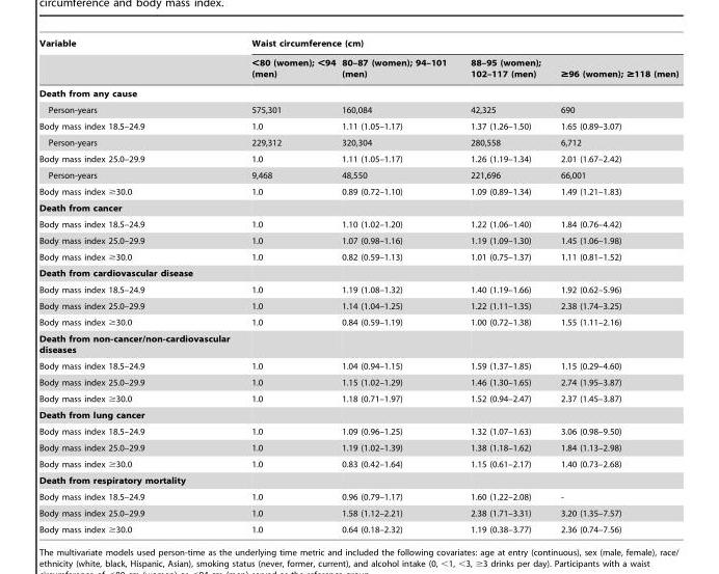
<table><thead><tr><td rowspan="2">Variable</td><td colspan="4">Waist circumference (cm)</td></tr><tr><td>&lt;80 (women); &lt;94 (men)</td><td>80–87 (women); 94–101 (men)</td><td>88–95 (women); 102–117 (men)</td><td>≥96 (women); ≥118 (men)</td></tr></thead><tbody><tr><td colspan="5">Death from any cause</td></tr><tr><td>Person-years</td><td>575,301</td><td>160,084</td><td>42,325</td><td>690</td></tr><tr><td>Body mass index 18.5–24.9</td><td>1.0</td><td>1.11 (1.05–1.17)</td><td>1.37 (1.26–1.50)</td><td>1.65 (0.89–3.07)</td></tr><tr><td>Person-years</td><td>229,312</td><td>320,304</td><td>280,558</td><td>6,712</td></tr><tr><td>Body mass index 25.0–29.9</td><td>1.0</td><td>1.11 (1.05–1.17)</td><td>1.26 (1.19–1.34)</td><td>2.01 (1.67–2.42)</td></tr><tr><td>Person-years</td><td>9,468</td><td>48,550</td><td>221,696</td><td>66,001</td></tr><tr><td>Body mass index ≥30.0</td><td>1.0</td><td>0.89 (0.72–1.10)</td><td>1.09 (0.89–1.34)</td><td>1.49 (1.21–1.83)</td></tr><tr><td colspan="5">Death from cancer</td></tr><tr><td>Body mass index 18.5–24.9</td><td>1.0</td><td>1.10 (1.02–1.20)</td><td>1.22 (1.06–1.40)</td><td>1.84 (0.76–4.42)</td></tr><tr><td>Body mass index 25.0–29.9</td><td>1.0</td><td>1.07 (0.98–1.16)</td><td>1.19 (1.09–1.30)</td><td>1.45 (1.06–1.98)</td></tr><tr><td>Body mass index ≥30.0</td><td>1.0</td><td>0.82 (0.59–1.13)</td><td>1.01 (0.75–1.37)</td><td>1.11 (0.81–1.52)</td></tr><tr><td colspan="5">Death from cardiovascular disease</td></tr><tr><td>Body mass index 18.5–24.9</td><td>1.0</td><td>1.19 (1.08–1.32)</td><td>1.40 (1.19–1.66)</td><td>1.92 (0.62–5.96)</td></tr><tr><td>Body mass index 25.0–29.9</td><td>1.0</td><td>1.14 (1.04–1.25)</td><td>1.22 (1.11–1.35)</td><td>2.38 (1.74–3.25)</td></tr><tr><td>Body mass index ≥30.0</td><td>1.0</td><td>0.84 (0.59–1.19)</td><td>1.00 (0.72–1.38)</td><td>1.55 (1.11–2.16)</td></tr><tr><td colspan="5">Death from non-cancer/non-cardiovascular diseases</td></tr><tr><td>Body mass index 18.5–24.9</td><td>1.0</td><td>1.04 (0.94–1.15)</td><td>1.59 (1.37–1.85)</td><td>1.15 (0.29–4.60)</td></tr><tr><td>Body mass index 25.0–29.9</td><td>1.0</td><td>1.15 (1.02–1.29)</td><td>1.46 (1.30–1.65)</td><td>2.74 (1.95–3.87)</td></tr><tr><td>Body mass index ≥30.0</td><td>1.0</td><td>1.18 (0.71–1.97)</td><td>1.52 (0.94–2.47)</td><td>2.37 (1.45–3.87)</td></tr><tr><td colspan="5">Death from lung cancer</td></tr><tr><td>Body mass index 18.5–24.9</td><td>1.0</td><td>1.09 (0.96–1.25)</td><td>1.32 (1.07–1.63)</td><td>3.06 (0.98–9.50)</td></tr><tr><td>Body mass index 25.0–29.9</td><td>1.0</td><td>1.19 (1.02–1.39)</td><td>1.38 (1.18–1.62)</td><td>1.84 (1.13–2.98)</td></tr><tr><td>Body mass index ≥30.0</td><td>1.0</td><td>0.83 (0.42–1.64)</td><td>1.15 (0.61–2.17)</td><td>1.40 (0.73–2.68)</td></tr><tr><td colspan="5">Death from respiratory mortality</td></tr><tr><td>Body mass index 18.5–24.9</td><td>1.0</td><td>0.96 (0.79–1.17)</td><td>1.60 (1.22–2.08)</td><td>-</td></tr><tr><td>Body mass index 25.0–29.9</td><td>1.0</td><td>1.58 (1.12–2.21)</td><td>2.38 (1.71–3.31)</td><td>3.20 (1.35–7.57)</td></tr><tr><td>Body mass index ≥30.0</td><td>1.0</td><td>0.64 (0.18–2.32)</td><td>1.19 (0.38–3.77)</td><td>2.36 (0.74–7.56)</td></tr></tbody></table>